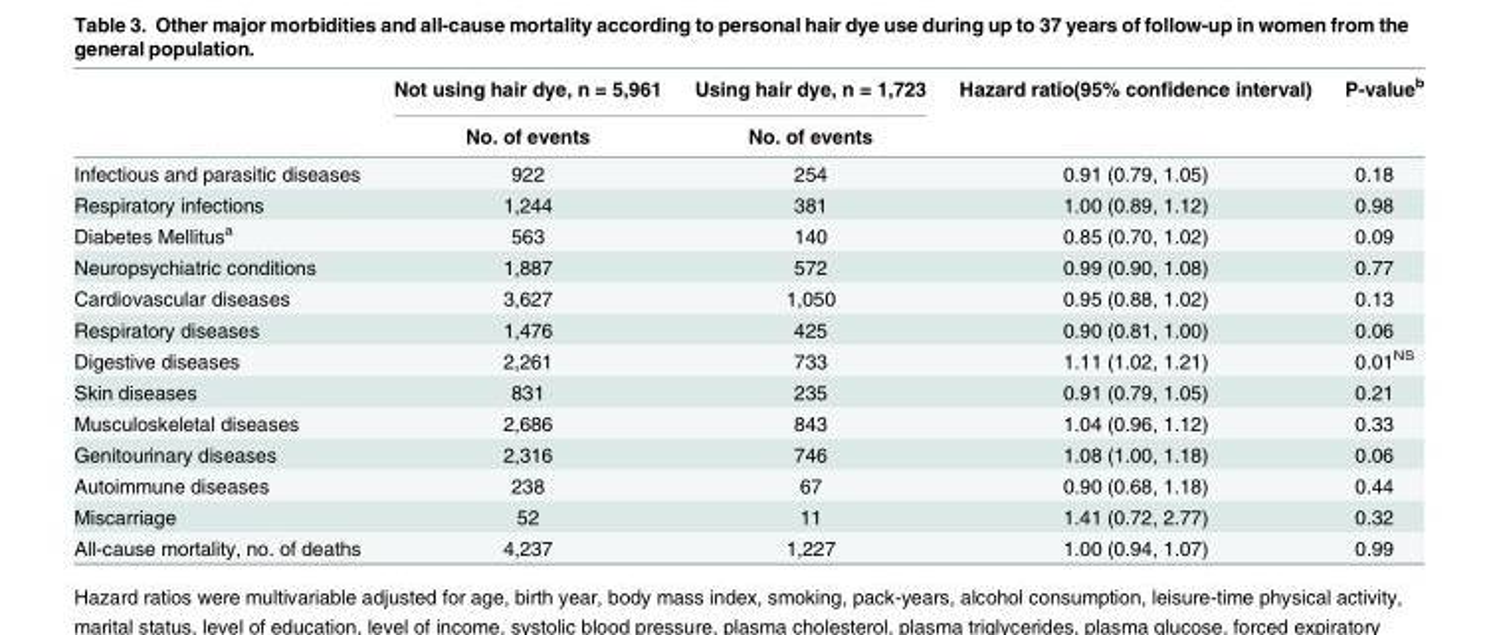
<table><thead><tr><td rowspan="2"></td><td rowspan="2">Not using hair dye, n = 5,961 No. of events</td><td rowspan="2">Using hair dye, n = 1,723 No. of events</td><td rowspan="2">Hazard ratio(95% confidence interval)</td><td rowspan="2">P-value<sup>b</sup></td></tr><tr></tr></thead><tbody><tr><td>Infectious and parasitic diseases</td><td>922</td><td>254</td><td>0.91 (0.79, 1.05)</td><td>0.18</td></tr><tr><td>Respiratory infections</td><td>1,244</td><td>381</td><td>1.00 (0.89, 1.12)</td><td>0.98</td></tr><tr><td>Diabetes Mellitus<sup>a</sup></td><td>563</td><td>140</td><td>0.85 (0.70, 1.02)</td><td>0.09</td></tr><tr><td>Neuropsychiatric conditions</td><td>1,887</td><td>572</td><td>0.99 (0.90, 1.08)</td><td>0.77</td></tr><tr><td>Cardiovascular diseases</td><td>3,627</td><td>1,050</td><td>0.95 (0.88, 1.02)</td><td>0.13</td></tr><tr><td>Respiratory diseases</td><td>1,476</td><td>425</td><td>0.90 (0.81, 1.00)</td><td>0.06</td></tr><tr><td>Digestive diseases</td><td>2,261</td><td>733</td><td>1.11 (1.02, 1.21)</td><td>0.01<sup>NS</sup></td></tr><tr><td>Skin diseases</td><td>831</td><td>235</td><td>0.91 (0.79, 1.05)</td><td>0.21</td></tr><tr><td>Musculoskeletal diseases</td><td>2,686</td><td>843</td><td>1.04 (0.96, 1.12)</td><td>0.33</td></tr><tr><td>Genitourinary diseases</td><td>2,316</td><td>746</td><td>1.08 (1.00, 1.18)</td><td>0.06</td></tr><tr><td>Autoimmune diseases</td><td>238</td><td>67</td><td>0.90 (0.68, 1.18)</td><td>0.44</td></tr><tr><td>Miscarriage</td><td>52</td><td>11</td><td>1.41 (0.72, 2.77)</td><td>0.32</td></tr><tr><td>All-cause mortality, no. of deaths</td><td>4,237</td><td>1,227</td><td>1.00 (0.94, 1.07)</td><td>0.99</td></tr></tbody></table>